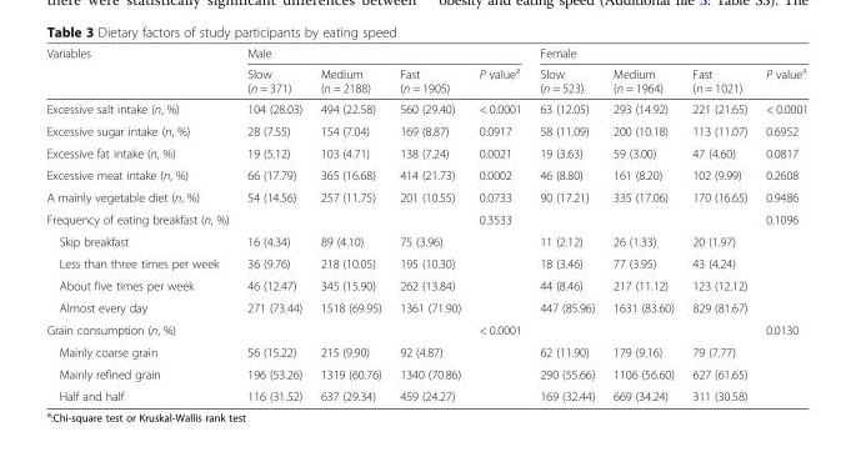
<table><thead><tr><td rowspan="2">Variables</td><td colspan="4">Male</td><td colspan="4">Female</td></tr><tr><td>Slow (n = 371)</td><td>Medium (n = 2188)</td><td>Fast (n = 1905)</td><td>P value<sup>a</sup></td><td>Slow (n = 523)</td><td>Medium (n = 1964)</td><td>Fast (n = 1021)</td><td>P value<sup>a</sup></td></tr></thead><tbody><tr><td>Excessive salt intake (n, %)</td><td>104 (28.03)</td><td>494 (22.58)</td><td>560 (29.40)</td><td>&lt; 0.0001</td><td>63 (12.05)</td><td>293 (14.92)</td><td>221 (21.65)</td><td>&lt; 0.0001</td></tr><tr><td>Excessive sugar intake (n, %)</td><td>28 (7.55)</td><td>154 (7.04)</td><td>169 (8.87)</td><td>0.0917</td><td>58 (11.09)</td><td>200 (10.18)</td><td>113 (11.07)</td><td>0.6952</td></tr><tr><td>Excessive fat intake (n, %)</td><td>19 (5.12)</td><td>103 (4.71)</td><td>138 (7.24)</td><td>0.0021</td><td>19 (3.63)</td><td>59 (3.00)</td><td>47 (4.60)</td><td>0.0817</td></tr><tr><td>Excessive meat intake (n, %)</td><td>66 (17.79)</td><td>365 (16.68)</td><td>414 (21.73)</td><td>0.0002</td><td>46 (8.80)</td><td>161 (8.20)</td><td>102 (9.99)</td><td>0.2608</td></tr><tr><td>A mainly vegetable diet (n, %)</td><td>54 (14.56)</td><td>257 (11.75)</td><td>201 (10.55)</td><td>0.0733</td><td>90 (17.21)</td><td>335 (17.06)</td><td>170 (16.65)</td><td>0.9486</td></tr><tr><td>Frequency of eating breakfast (n, %)</td><td></td><td></td><td></td><td>0.3533</td><td></td><td></td><td></td><td>0.1096</td></tr><tr><td>Skip breakfast</td><td>16 (4.34)</td><td>89 (4.10)</td><td>75 (3.96)</td><td></td><td>11 (2.12)</td><td>26 (1.33)</td><td>20 (1.97)</td><td></td></tr><tr><td>Less than three times per week</td><td>36 (9.76)</td><td>218 (10.05)</td><td>195 (10.30)</td><td></td><td>18 (3.46)</td><td>77 (3.95)</td><td>43 (4.24)</td><td></td></tr><tr><td>About five times per week</td><td>46 (12.47)</td><td>345 (15.90)</td><td>262 (13.84)</td><td></td><td>44 (8.46)</td><td>217 (11.12)</td><td>123 (12.12)</td><td></td></tr><tr><td>Almost every day</td><td>271 (73.44)</td><td>1518 (69.95)</td><td>1361 (71.90)</td><td></td><td>447 (85.96)</td><td>1631 (83.60)</td><td>829 (81.67)</td><td></td></tr><tr><td>Grain consumption (n, %)</td><td></td><td></td><td></td><td>&lt; 0.0001</td><td></td><td></td><td></td><td>0.0130</td></tr><tr><td>Mainly coarse grain</td><td>56 (15.22)</td><td>215 (9.90)</td><td>92 (4.87)</td><td></td><td>62 (11.90)</td><td>179 (9.16)</td><td>79 (7.77)</td><td></td></tr><tr><td>Mainly refined grain</td><td>196 (53.26)</td><td>1319 (60.76)</td><td>1340 (70.86)</td><td></td><td>290 (55.66)</td><td>1106 (56.60)</td><td>627 (61.65)</td><td></td></tr><tr><td>Half and half</td><td>116 (31.52)</td><td>637 (29.34)</td><td>459 (24.27)</td><td></td><td>169 (32.44)</td><td>669 (34.24)</td><td>311 (30.58)</td><td></td></tr></tbody></table>